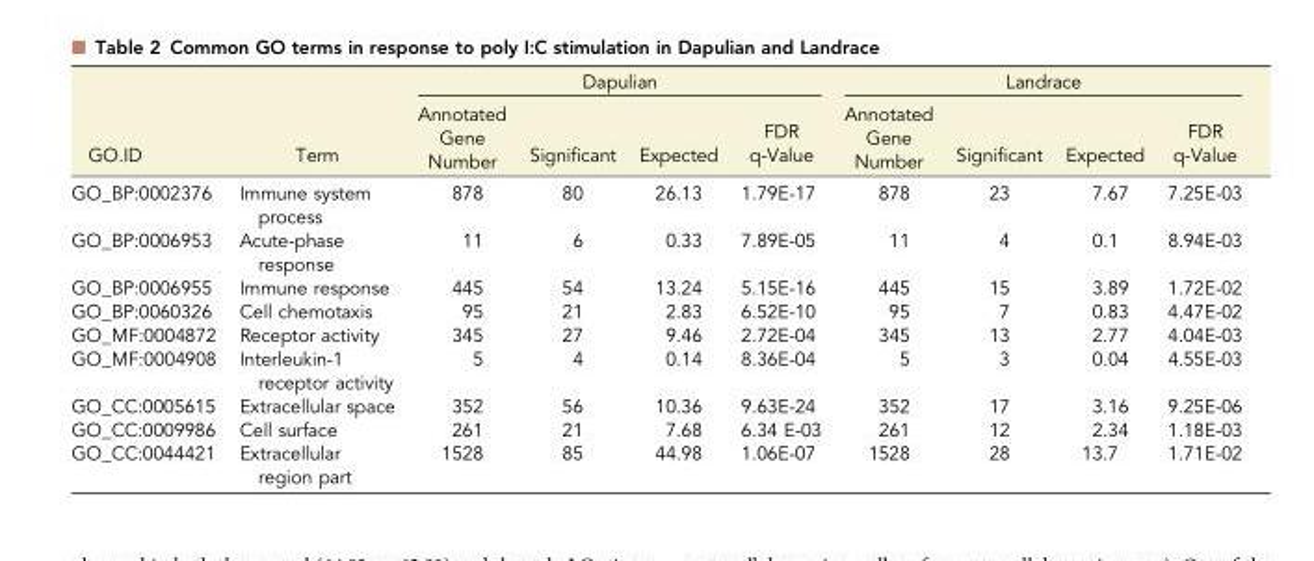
<table><thead><tr><td rowspan="2">GO.ID</td><td rowspan="2">Term</td><td colspan="4">Dapulian</td><td colspan="4">Landrace</td></tr><tr><td>Annotated Gene Number</td><td>Significant</td><td>Expected</td><td>FDR q-Value</td><td>Annotated Gene Number</td><td>Significant</td><td>Expected</td><td>FDR q-Value</td></tr></thead><tbody><tr><td>GO_BP:0002376</td><td>Immune system process</td><td>878</td><td>80</td><td>26.13</td><td>1.79E-17</td><td>878</td><td>23</td><td>7.67</td><td>7.25E-03</td></tr><tr><td>GO_BP:0006953</td><td>Acute-phase response</td><td>11</td><td>6</td><td>0.33</td><td>7.89E-05</td><td>11</td><td>4</td><td>0.1</td><td>8.94E-03</td></tr><tr><td>GO_BP:0006955</td><td>Immune response</td><td>445</td><td>54</td><td>13.24</td><td>5.15E-16</td><td>445</td><td>15</td><td>3.89</td><td>1.72E-02</td></tr><tr><td>GO_BP:0060326</td><td>Cell chemotaxis</td><td>95</td><td>21</td><td>2.83</td><td>6.52E-10</td><td>95</td><td>7</td><td>0.83</td><td>4.47E-02</td></tr><tr><td>GO_MF:0004872</td><td>Receptor activity</td><td>345</td><td>27</td><td>9.46</td><td>2.72E-04</td><td>345</td><td>13</td><td>2.77</td><td>4.04E-03</td></tr><tr><td>GO_MF:0004908</td><td>Interleukin-1 receptor activity</td><td>5</td><td>4</td><td>0.14</td><td>8.36E-04</td><td>5</td><td>3</td><td>0.04</td><td>4.55E-03</td></tr><tr><td>GO_CC:0005615</td><td>Extracellular space</td><td>352</td><td>56</td><td>10.36</td><td>9.63E-24</td><td>352</td><td>17</td><td>3.16</td><td>9.25E-06</td></tr><tr><td>GO_CC:0009986</td><td>Cell surface</td><td>261</td><td>21</td><td>7.68</td><td>6.34 E-03</td><td>261</td><td>12</td><td>2.34</td><td>1.18E-03</td></tr><tr><td>GO_CC:0044421</td><td>Extracellular region part</td><td>1528</td><td>85</td><td>44.98</td><td>1.06E-07</td><td>1528</td><td>28</td><td>13.7</td><td>1.71E-02</td></tr></tbody></table>